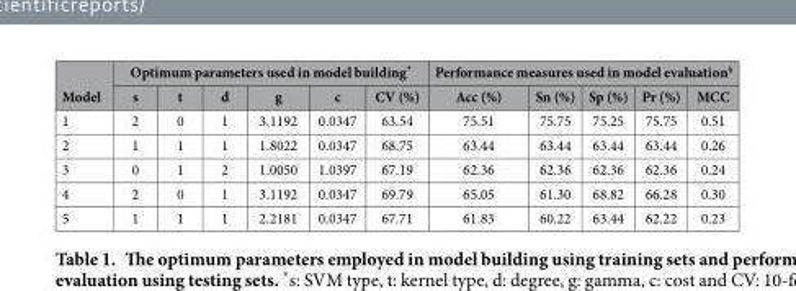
<table><thead><tr><td rowspan="2">Model</td><td colspan="6">Optimum parameters used in model building*</td><td colspan="5">Performance measures used in model evaluation<sup>§</sup></td></tr><tr><td>s</td><td>t</td><td>d</td><td>g</td><td>c</td><td>CV (%)</td><td>Acc (%)</td><td>Sn (%)</td><td>Sp (%)</td><td>Pr (%)</td><td>MCC</td></tr></thead><tbody><tr><td>1</td><td>2</td><td>0</td><td>1</td><td>3.1192</td><td>0.0347</td><td>63.54</td><td>75.51</td><td>75.75</td><td>75.25</td><td>75.75</td><td>0.51</td></tr><tr><td>2</td><td>1</td><td>1</td><td>1</td><td>1.8022</td><td>0.0347</td><td>68.75</td><td>63.44</td><td>63.44</td><td>63.44</td><td>63.44</td><td>0.26</td></tr><tr><td>3</td><td>0</td><td>1</td><td>2</td><td>1.0050</td><td>1.0397</td><td>67.19</td><td>62.36</td><td>62.36</td><td>62.36</td><td>62.36</td><td>0.24</td></tr><tr><td>4</td><td>2</td><td>0</td><td>1</td><td>3.1192</td><td>0.0347</td><td>69.79</td><td>65.05</td><td>61.30</td><td>68.82</td><td>66.28</td><td>0.30</td></tr><tr><td>5</td><td>1</td><td>1</td><td>1</td><td>2.2181</td><td>0.0347</td><td>67.71</td><td>61.83</td><td>60.22</td><td>63.44</td><td>62.22</td><td>0.23</td></tr></tbody></table>